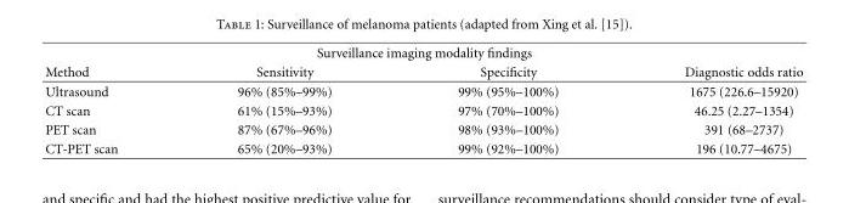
<table><thead><tr><td colspan="4">Surveillance imaging modality findings</td></tr><tr><td>Method</td><td>Sensitivity</td><td>Specificity</td><td>Diagnostic odds ratio</td></tr></thead><tbody><tr><td>Ultrasound</td><td>96% (85%–99%)</td><td>99% (95%–100%)</td><td>1675 (226.6–15920)</td></tr><tr><td>CT scan</td><td>61% (15%–93%)</td><td>97% (70%–100%)</td><td>46.25 (2.27–1354)</td></tr><tr><td>PET scan</td><td>87% (67%–96%)</td><td>98% (93%–100%)</td><td>391 (68–2737)</td></tr><tr><td>CT-PET scan</td><td>65% (20%–93%)</td><td>99% (92%–100%)</td><td>196 (10.77–4675)</td></tr></tbody></table>